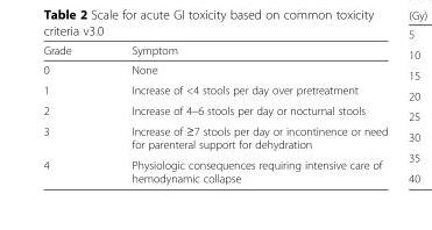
<table><thead><tr><td>Grade</td><td>Symptom</td></tr></thead><tbody><tr><td>0</td><td>None</td></tr><tr><td>1</td><td>Increase of &lt;4 stools per day over pretreatment</td></tr><tr><td>2</td><td>Increase of 4–6 stools per day or nocturnal stools</td></tr><tr><td>3</td><td>Increase of ≥7 stools per day or incontinence or need for parenteral support for dehydration</td></tr><tr><td>4</td><td>Physiologic consequences requiring intensive care of hemodynamic collapse</td></tr></tbody></table>